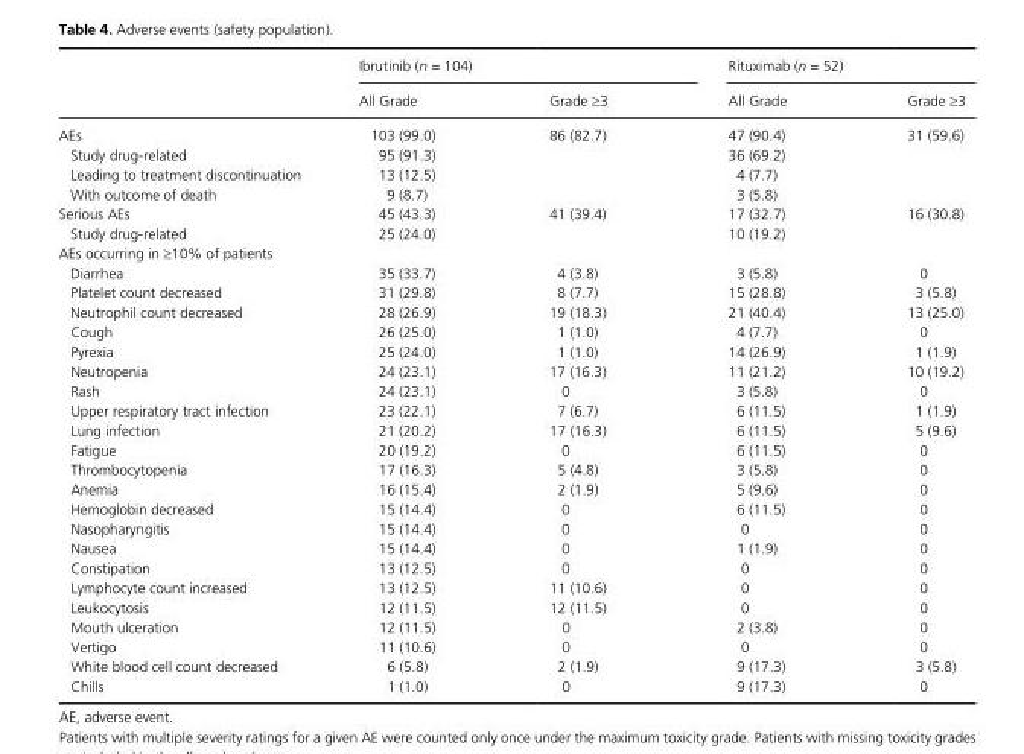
<table><thead><tr><td rowspan="2"></td><td colspan="2">Ibrutinib (n = 104)</td><td colspan="2">Rituximab (n = 52)</td></tr><tr><td>All Grade</td><td>Grade ≥3</td><td>All Grade</td><td>Grade ≥3</td></tr></thead><tbody><tr><td>AEs</td><td>103 (99.0)</td><td>86 (82.7)</td><td>47 (90.4)</td><td>31 (59.6)</td></tr><tr><td>Study drug- related</td><td>95 (91.3)</td><td></td><td>36 (69.2)</td><td></td></tr><tr><td>Leading to treatment discontinuation</td><td>13 (12.5)</td><td></td><td>4 (7.7)</td><td></td></tr><tr><td>With outcome of death</td><td>9 (8.7)</td><td></td><td>3 (5.8)</td><td></td></tr><tr><td>Serious AEs</td><td>45 (43.3)</td><td>41 (39.4)</td><td>17 (32.7)</td><td>16 (30.8)</td></tr><tr><td>Study drug- related</td><td>25 (24.0)</td><td></td><td>10 (19.2)</td><td></td></tr><tr><td colspan="5">AEs occurring in ≥10% of patients</td></tr><tr><td>Diarrhea</td><td>35 (33.7)</td><td>4 (3.8)</td><td>3 (5.8)</td><td>0</td></tr><tr><td>Platelet count decreased</td><td>31 (29.8)</td><td>8 (7.7)</td><td>15 (28.8)</td><td>3 (5.8)</td></tr><tr><td>Neutrophil count decreased</td><td>28 (26.9)</td><td>19 (18.3)</td><td>21 (40.4)</td><td>13 (25.0)</td></tr><tr><td>Cough</td><td>26 (25.0)</td><td>1 (1.0)</td><td>4 (7.7)</td><td>0</td></tr><tr><td>Pyrexia</td><td>25 (24.0)</td><td>1 (1.0)</td><td>14 (26.9)</td><td>1 (1.9)</td></tr><tr><td>Neutropenia</td><td>24 (23.1)</td><td>17 (16.3)</td><td>11 (21.2)</td><td>10 (19.2)</td></tr><tr><td>Rash</td><td>24 (23.1)</td><td>0</td><td>3 (5.8)</td><td>0</td></tr><tr><td>Upper respiratory tract infection</td><td>23 (22.1)</td><td>7 (6.7)</td><td>6 (11.5)</td><td>1 (1.9)</td></tr><tr><td>Lung infection</td><td>21 (20.2)</td><td>17 (16.3)</td><td>6 (11.5)</td><td>5 (9.6)</td></tr><tr><td>Fatigue</td><td>20 (19.2)</td><td>0</td><td>6 (11.5)</td><td>0</td></tr><tr><td>Thrombocytopenia</td><td>17 (16.3)</td><td>5 (4.8)</td><td>3 (5.8)</td><td>0</td></tr><tr><td>Anemia</td><td>16 (15.4)</td><td>2 (1.9)</td><td>5 (9.6)</td><td>0</td></tr><tr><td>Hemoglobin decreased</td><td>15 (14.4)</td><td>0</td><td>6 (11.5)</td><td>0</td></tr><tr><td>Nasopharyngitis</td><td>15 (14.4)</td><td>0</td><td>0</td><td>0</td></tr><tr><td>Nausea</td><td>15 (14.4)</td><td>0</td><td>1 (1.9)</td><td>0</td></tr><tr><td>Constipation</td><td>13 (12.5)</td><td>0</td><td>0</td><td>0</td></tr><tr><td>Lymphocyte count increased</td><td>13 (12.5)</td><td>11 (10.6)</td><td>0</td><td>0</td></tr><tr><td>Leukocytosis</td><td>12 (11.5)</td><td>12 (11.5)</td><td>0</td><td>0</td></tr><tr><td>Mouth ulceration</td><td>12 (11.5)</td><td>0</td><td>2 (3.8)</td><td>0</td></tr><tr><td>Vertigo</td><td>11 (10.6)</td><td>0</td><td>0</td><td>0</td></tr><tr><td>White blood cell count decreased</td><td>6 (5.8)</td><td>2 (1.9)</td><td>9 (17.3)</td><td>3 (5.8)</td></tr><tr><td>Chills</td><td>1 (1.0)</td><td>0</td><td>9 (17.3)</td><td>0</td></tr></tbody></table>